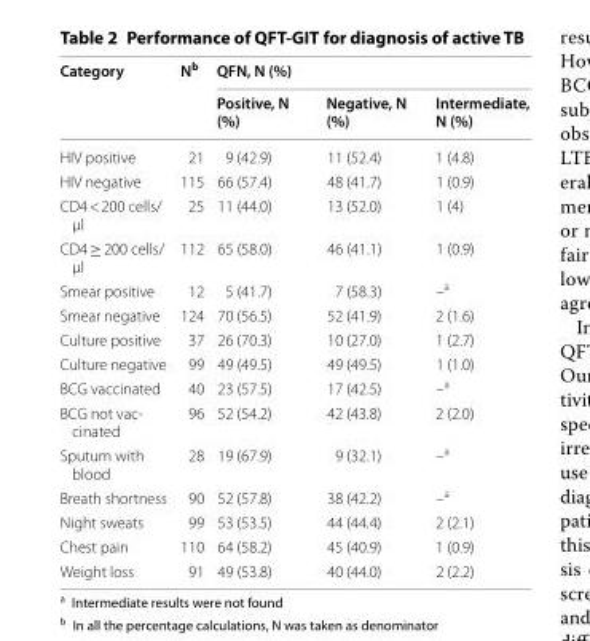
<table><thead><tr><td rowspan="2">Category</td><td rowspan="2">N<sup>b</sup></td><td colspan="3">QFN, N (%)</td></tr><tr><td>Positive, N (%)</td><td>Negative, N (%)</td><td>Intermediate, N (%)</td></tr></thead><tbody><tr><td>HIV positive</td><td>21</td><td>9 (42.9)</td><td>11 (52.4)</td><td>1 (4.8)</td></tr><tr><td>HIV negative</td><td>115</td><td>66 (57.4)</td><td>48 (41.7)</td><td>1 (0.9)</td></tr><tr><td>CD4 &lt; 200 cells/ µl</td><td>25</td><td>11 (44.0)</td><td>13 (52.0)</td><td>1 (4)</td></tr><tr><td>CD4 ≥ 200 cells/ µl</td><td>112</td><td>65 (58.0)</td><td>46 (41.1)</td><td>1 (0.9)</td></tr><tr><td>Smear positive</td><td>12</td><td>5 (41.7)</td><td>7 (58.3)</td><td>–<sup>a</sup></td></tr><tr><td>Smear negative</td><td>124</td><td>70 (56.5)</td><td>52 (41.9)</td><td>2 (1.6)</td></tr><tr><td>Culture positive</td><td>37</td><td>26 (70.3)</td><td>10 (27.0)</td><td>1 (2.7)</td></tr><tr><td>Culture negative</td><td>99</td><td>49 (49.5)</td><td>49 (49.5)</td><td>1 (1.0)</td></tr><tr><td>BCG vaccinated</td><td>40</td><td>23 (57.5)</td><td>17 (42.5)</td><td>–<sup>a</sup></td></tr><tr><td>BCG not vac- cinated</td><td>96</td><td>52 (54.2)</td><td>42 (43.8)</td><td>2 (2.0)</td></tr><tr><td>Sputum with blood</td><td>28</td><td>19 (67.9)</td><td>9 (32.1)</td><td>–<sup>a</sup></td></tr><tr><td>Breath shortness</td><td>90</td><td>52 (57.8)</td><td>38 (42.2)</td><td>–<sup>a</sup></td></tr><tr><td>Night sweats</td><td>99</td><td>53 (53.5)</td><td>44 (44.4)</td><td>2 (2.1)</td></tr><tr><td>Chest pain</td><td>110</td><td>64 (58.2)</td><td>45 (40.9)</td><td>1 (0.9)</td></tr><tr><td>Weight loss</td><td>91</td><td>49 (53.8)</td><td>40 (44.0)</td><td>2 (2.2)</td></tr></tbody></table>